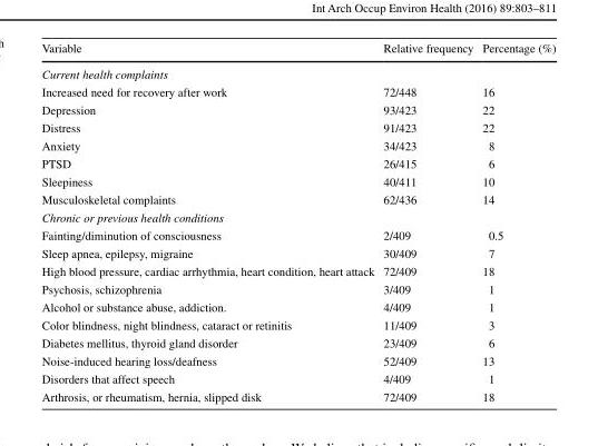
<table><thead><tr><td>Variable</td><td>Relative frequency</td><td>Percentage (%)</td></tr></thead><tbody><tr><td colspan="3">Current health complaints</td></tr><tr><td>Increased need for recovery after work</td><td>72/448</td><td>16</td></tr><tr><td>Depression</td><td>93/423</td><td>22</td></tr><tr><td>Distress</td><td>91/423</td><td>22</td></tr><tr><td>Anxiety</td><td>34/423</td><td>8</td></tr><tr><td>PTSD</td><td>26/415</td><td>6</td></tr><tr><td>Sleepiness</td><td>40/411</td><td>10</td></tr><tr><td>Musculoskeletal complaints</td><td>62/436</td><td>14</td></tr><tr><td colspan="3">Chronic or previous health conditions</td></tr><tr><td>Fainting/diminution of consciousness</td><td>2/409</td><td>0.5</td></tr><tr><td>Sleep apnea, epilepsy, migraine</td><td>30/409</td><td>7</td></tr><tr><td>High blood pressure, cardiac arrhythmia, heart condition, heart attack</td><td>72/409</td><td>18</td></tr><tr><td>Psychosis, schizophrenia</td><td>3/409</td><td>1</td></tr><tr><td>Alcohol or substance abuse, addiction.</td><td>4/409</td><td>1</td></tr><tr><td>Color blindness, night blindness, cataract or retinitis</td><td>11/409</td><td>3</td></tr><tr><td>Diabetes mellitus, thyroid gland disorder</td><td>23/409</td><td>6</td></tr><tr><td>Noise-induced hearing loss/deafness</td><td>52/409</td><td>13</td></tr><tr><td>Disorders that affect speech</td><td>4/409</td><td>1</td></tr><tr><td>Arthrosis, or rheumatism, hernia, slipped disk</td><td>72/409</td><td>18</td></tr></tbody></table>